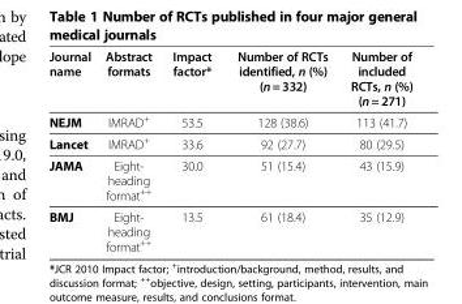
<table><thead><tr><td>Journal name</td><td>Abstract formats</td><td>Impact factor*</td><td>Number of RCTs identified, n (%) (n = 332)</td><td>Number of included RCTs, n (%) (n = 271)</td></tr></thead><tbody><tr><td>NEJM</td><td>IMRAD<sup>+</sup></td><td>53.5</td><td>128 (38.6)</td><td>113 (41.7)</td></tr><tr><td>Lancet</td><td>IMRAD<sup>+</sup></td><td>33.6</td><td>92 (27.7)</td><td>80 (29.5)</td></tr><tr><td>JAMA</td><td>Eight- heading format<sup>++</sup></td><td>30.0</td><td>51 (15.4)</td><td>43 (15.9)</td></tr><tr><td>BMJ</td><td>Eight- heading format<sup>++</sup></td><td>13.5</td><td>61 (18.4)</td><td>35 (12.9)</td></tr></tbody></table>